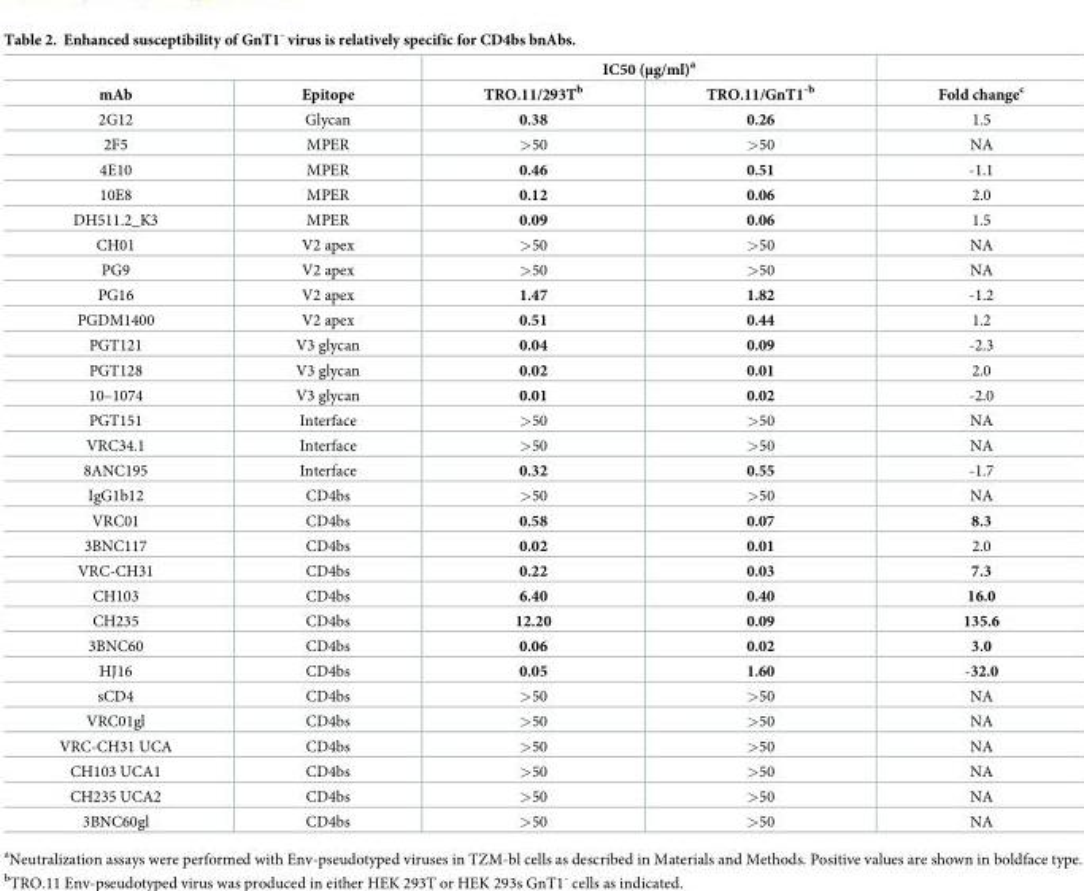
<table><thead><tr><td rowspan="2">mAb</td><td rowspan="2">Epitope</td><td colspan="2">IC50 (μg/ml)<sup>a</sup></td><td rowspan="2">Fold change<sup>c</sup></td></tr><tr><td>TRO.11/293T<sup>b</sup></td><td>TRO.11/GnT1<sup>-b</sup></td></tr></thead><tbody><tr><td>2G12</td><td>Glycan</td><td>0.38</td><td>0.26</td><td>1.5</td></tr><tr><td>2F5</td><td>MPER</td><td>&gt;50</td><td>&gt;50</td><td>NA</td></tr><tr><td>4E10</td><td>MPER</td><td>0.46</td><td>0.51</td><td>-1.1</td></tr><tr><td>10E8</td><td>MPER</td><td>0.12</td><td>0.06</td><td>2.0</td></tr><tr><td>DH511.2_K3</td><td>MPER</td><td>0.09</td><td>0.06</td><td>1.5</td></tr><tr><td>CH01</td><td>V2 apex</td><td>&gt;50</td><td>&gt;50</td><td>NA</td></tr><tr><td>PG9</td><td>V2 apex</td><td>&gt;50</td><td>&gt;50</td><td>NA</td></tr><tr><td>PG16</td><td>V2 apex</td><td>1.47</td><td>1.82</td><td>-1.2</td></tr><tr><td>PGDM1400</td><td>V2 apex</td><td>0.51</td><td>0.44</td><td>1.2</td></tr><tr><td>PGT121</td><td>V3 glycan</td><td>0.04</td><td>0.09</td><td>-2.3</td></tr><tr><td>PGT128</td><td>V3 glycan</td><td>0.02</td><td>0.01</td><td>2.0</td></tr><tr><td>10–1074</td><td>V3 glycan</td><td>0.01</td><td>0.02</td><td>-2.0</td></tr><tr><td>PGT151</td><td>Interface</td><td>&gt;50</td><td>&gt;50</td><td>NA</td></tr><tr><td>VRC34.1</td><td>Interface</td><td>&gt;50</td><td>&gt;50</td><td>NA</td></tr><tr><td>8ANC195</td><td>Interface</td><td>0.32</td><td>0.55</td><td>-1.7</td></tr><tr><td>IgG1b12</td><td>CD4bs</td><td>&gt;50</td><td>&gt;50</td><td>NA</td></tr><tr><td>VRC01</td><td>CD4bs</td><td>0.58</td><td>0.07</td><td>8.3</td></tr><tr><td>3BNC117</td><td>CD4bs</td><td>0.02</td><td>0.01</td><td>2.0</td></tr><tr><td>VRC-CH31</td><td>CD4bs</td><td>0.22</td><td>0.03</td><td>7.3</td></tr><tr><td>CH103</td><td>CD4bs</td><td>6.40</td><td>0.40</td><td>16.0</td></tr><tr><td>CH235</td><td>CD4bs</td><td>12.20</td><td>0.09</td><td>135.6</td></tr><tr><td>3BNC60</td><td>CD4bs</td><td>0.06</td><td>0.02</td><td>3.0</td></tr><tr><td>HJ16</td><td>CD4bs</td><td>0.05</td><td>1.60</td><td>-32.0</td></tr><tr><td>sCD4</td><td>CD4bs</td><td>&gt;50</td><td>&gt;50</td><td>NA</td></tr><tr><td>VRC01gl</td><td>CD4bs</td><td>&gt;50</td><td>&gt;50</td><td>NA</td></tr><tr><td>VRC-CH31 UCA</td><td>CD4bs</td><td>&gt;50</td><td>&gt;50</td><td>NA</td></tr><tr><td>CH103 UCA1</td><td>CD4bs</td><td>&gt;50</td><td>&gt;50</td><td>NA</td></tr><tr><td>CH235 UCA2</td><td>CD4bs</td><td>&gt;50</td><td>&gt;50</td><td>NA</td></tr><tr><td>3BNC60gl</td><td>CD4bs</td><td>&gt;50</td><td>&gt;50</td><td>NA</td></tr></tbody></table>